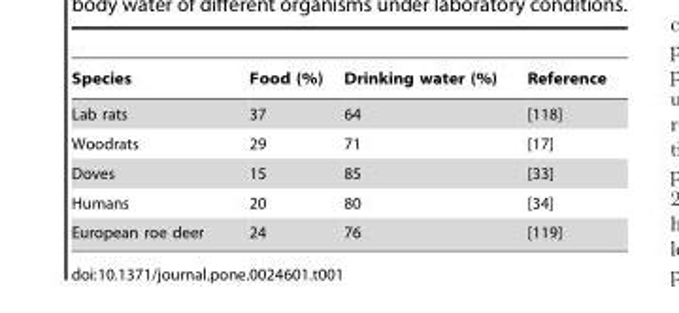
<table><thead><tr><td>Species</td><td>Food (%)</td><td>Drinking water (%)</td><td>Reference</td></tr></thead><tbody><tr><td>Lab rats</td><td>37</td><td>64</td><td>[118]</td></tr><tr><td>Woodrats</td><td>29</td><td>71</td><td>[17]</td></tr><tr><td>Doves</td><td>15</td><td>85</td><td>[33]</td></tr><tr><td>Humans</td><td>20</td><td>80</td><td>[34]</td></tr><tr><td>European roe deer</td><td>24</td><td>76</td><td>[119]</td></tr></tbody></table>